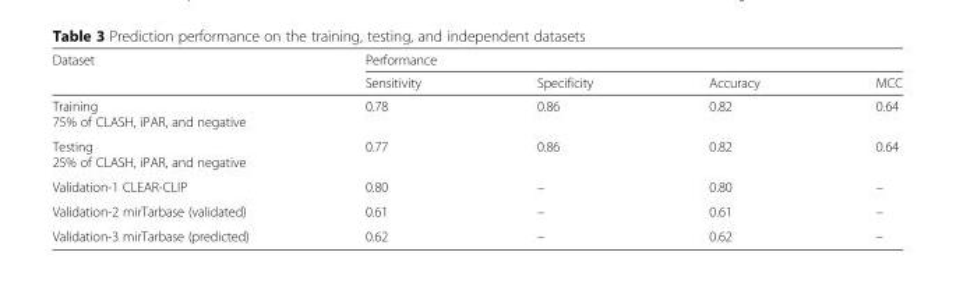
<table><thead><tr><td rowspan="2">Dataset</td><td colspan="4">Performance</td></tr><tr><td>Sensitivity</td><td>Specificity</td><td>Accuracy</td><td>MCC</td></tr></thead><tbody><tr><td>Training 75% of CLASH, iPAR, and negative</td><td>0.78</td><td>0.86</td><td>0.82</td><td>0.64</td></tr><tr><td>Testing 25% of CLASH, iPAR, and negative</td><td>0.77</td><td>0.86</td><td>0.82</td><td>0.64</td></tr><tr><td>Validation-1 CLEAR-CLIP</td><td>0.80</td><td>–</td><td>0.80</td><td>–</td></tr><tr><td>Validation-2 mirTarbase (validated)</td><td>0.61</td><td>–</td><td>0.61</td><td>–</td></tr><tr><td>Validation-3 mirTarbase (predicted)</td><td>0.62</td><td>–</td><td>0.62</td><td>–</td></tr></tbody></table>